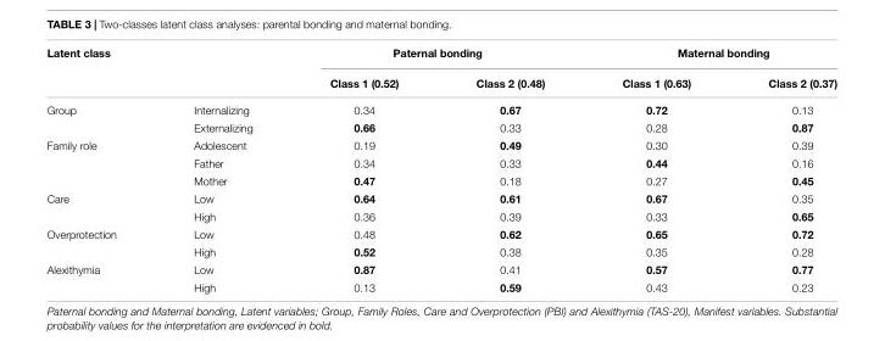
<table><thead><tr><td rowspan="2">Latent class</td><td rowspan="2"></td><td colspan="2">Paternal bonding</td><td colspan="2">Maternal bonding</td></tr><tr><td>Class 1 (0.52)</td><td>Class 2 (0.48)</td><td>Class 1 (0.63)</td><td>Class 2 (0.37)</td></tr></thead><tbody><tr><td rowspan="2">Group</td><td>Internalizing</td><td>0.34</td><td>0.67</td><td>0.72</td><td>0.13</td></tr><tr><td>Externalizing</td><td>0.66</td><td>0.33</td><td>0.28</td><td>0.87</td></tr><tr><td rowspan="3">Family role</td><td>Adolescent</td><td>0.19</td><td>0.49</td><td>0.30</td><td>0.39</td></tr><tr><td>Father</td><td>0.34</td><td>0.33</td><td>0.44</td><td>0.16</td></tr><tr><td>Mother</td><td>0.47</td><td>0.18</td><td>0.27</td><td>0.45</td></tr><tr><td rowspan="2">Care</td><td>Low</td><td>0.64</td><td>0.61</td><td>0.67</td><td>0.35</td></tr><tr><td>High</td><td>0.36</td><td>0.39</td><td>0.33</td><td>0.65</td></tr><tr><td rowspan="2">Overprotection</td><td>Low</td><td>0.48</td><td>0.62</td><td>0.65</td><td>0.72</td></tr><tr><td>High</td><td>0.52</td><td>0.38</td><td>0.35</td><td>0.28</td></tr><tr><td rowspan="2">Alexithymia</td><td>Low</td><td>0.87</td><td>0.41</td><td>0.57</td><td>0.77</td></tr><tr><td>High</td><td>0.13</td><td>0.59</td><td>0.43</td><td>0.23</td></tr></tbody></table>